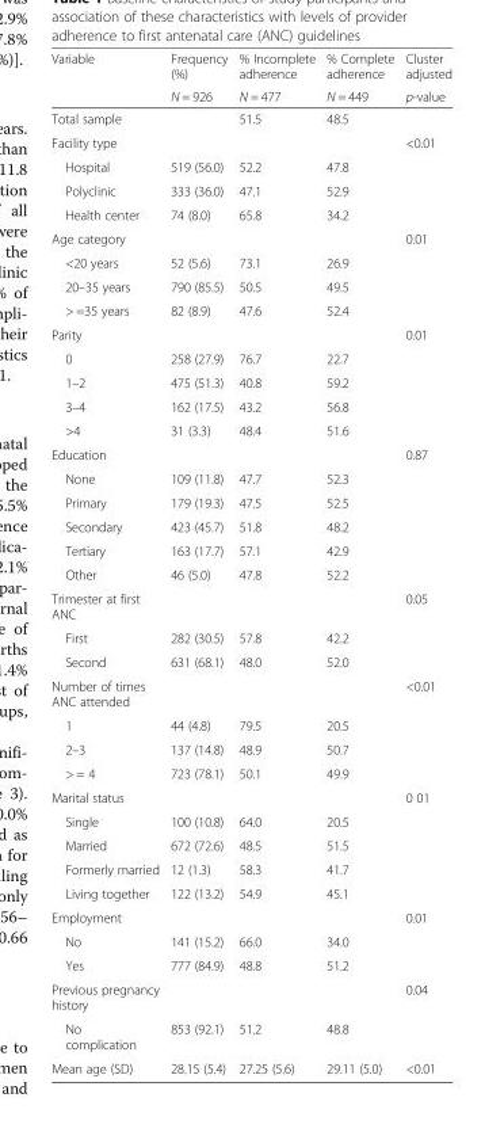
<table><thead><tr><td rowspan="2">Variable</td><td rowspan="2">Frequency (%) N = 926</td><td rowspan="2">% Incomplete adherence N = 477</td><td rowspan="2">% Complete adherence N = 449</td><td rowspan="2">Cluster adjusted p-value</td></tr><tr></tr></thead><tbody><tr><td>Total sample</td><td></td><td>51.5</td><td>48.5</td><td></td></tr><tr><td colspan="4">Facility type</td><td rowspan="4">&lt;0.01</td></tr><tr><td>Hospital</td><td>519 (56.0)</td><td>52.2</td><td>47.8</td></tr><tr><td>Polyclinic</td><td>333 (36.0)</td><td>47.1</td><td>52.9</td></tr><tr><td>Health center</td><td>74 (8.0)</td><td>65.8</td><td>34.2</td></tr><tr><td colspan="4">Age category</td><td rowspan="4">0.01</td></tr><tr><td>&lt;20 years</td><td>52 (5.6)</td><td>73.1</td><td>26.9</td></tr><tr><td>20–35 years</td><td>790 (85.5)</td><td>50.5</td><td>49.5</td></tr><tr><td>&gt; =35 years</td><td>82 (8.9)</td><td>47.6</td><td>52.4</td></tr><tr><td colspan="4">Parity</td><td rowspan="5">0.01</td></tr><tr><td>0</td><td>258 (27.9)</td><td>76.7</td><td>22.7</td></tr><tr><td>1–2</td><td>475 (51.3)</td><td>40.8</td><td>59.2</td></tr><tr><td>3–4</td><td>162 (17.5)</td><td>43.2</td><td>56.8</td></tr><tr><td>&gt;4</td><td>31 (3.3)</td><td>48.4</td><td>51.6</td></tr><tr><td colspan="4">Education</td><td rowspan="6">0.87</td></tr><tr><td>None</td><td>109 (11.8)</td><td>47.7</td><td>52.3</td></tr><tr><td>Primary</td><td>179 (19.3)</td><td>47.5</td><td>52.5</td></tr><tr><td>Secondary</td><td>423 (45.7)</td><td>51.8</td><td>48.2</td></tr><tr><td>Tertiary</td><td>163 (17.7)</td><td>57.1</td><td>42.9</td></tr><tr><td>Other</td><td>46 (5.0)</td><td>47.8</td><td>52.2</td></tr><tr><td colspan="4">Trimester at first ANC</td><td rowspan="3">0.05</td></tr><tr><td>First</td><td>282 (30.5)</td><td>57.8</td><td>42.2</td></tr><tr><td>Second</td><td>631 (68.1)</td><td>48.0</td><td>52.0</td></tr><tr><td colspan="4">Number of times ANC attended</td><td rowspan="4">&lt;0.01</td></tr><tr><td>1</td><td>44 (4.8)</td><td>79.5</td><td>20.5</td></tr><tr><td>2–3</td><td>137 (14.8)</td><td>48.9</td><td>50.7</td></tr><tr><td>&gt; = 4</td><td>723 (78.1)</td><td>50.1</td><td>49.9</td></tr><tr><td colspan="4">Marital status</td><td rowspan="5">0 01</td></tr><tr><td>Single</td><td>100 (10.8)</td><td>64.0</td><td>20.5</td></tr><tr><td>Married</td><td>672 (72.6)</td><td>48.5</td><td>51.5</td></tr><tr><td>Formerly married</td><td>12 (1.3)</td><td>58.3</td><td>41.7</td></tr><tr><td>Living together</td><td>122 (13.2)</td><td>54.9</td><td>45.1</td></tr><tr><td colspan="4">Employment</td><td rowspan="3">0.01</td></tr><tr><td>No</td><td>141 (15.2)</td><td>66.0</td><td>34.0</td></tr><tr><td>Yes</td><td>777 (84.9)</td><td>48.8</td><td>51.2</td></tr><tr><td colspan="4">Previous pregnancy history</td><td rowspan="2">0.04</td></tr><tr><td>No complication</td><td>853 (92.1)</td><td>51.2</td><td>48.8</td></tr><tr><td>Mean age (SD)</td><td>28.15 (5.4)</td><td>27.25 (5.6)</td><td>29.11 (5.0)</td><td>&lt;0.01</td></tr></tbody></table>